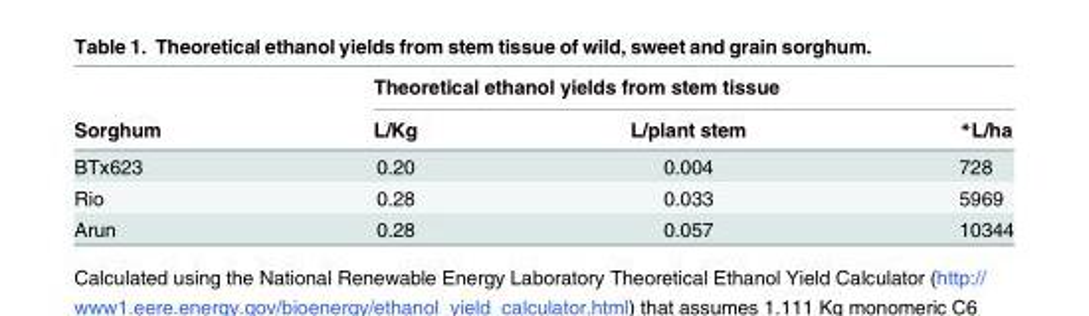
<table><thead><tr><td rowspan="2">Sorghum</td><td colspan="3">Theoretical ethanol yields from stem tissue</td></tr><tr><td>L/Kg</td><td>L/plant stem</td><td>*L/ha</td></tr></thead><tbody><tr><td>BTx623</td><td>0.20</td><td>0.004</td><td>728</td></tr><tr><td>Rio</td><td>0.28</td><td>0.033</td><td>5969</td></tr><tr><td>Arun</td><td>0.28</td><td>0.057</td><td>10344</td></tr></tbody></table>